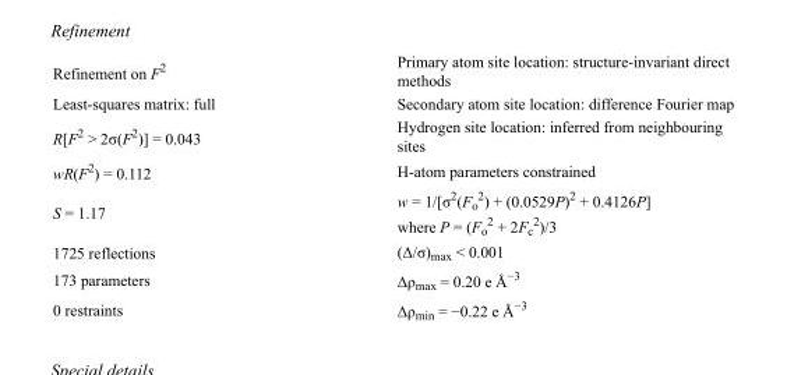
<table><tbody><tr><td>Refinement on F<sup>2</sup></td><td>Primary atom site location: structure-invariant direct methods</td></tr><tr><td>Least-squares matrix: full</td><td>Secondary atom site location: difference Fourier map</td></tr><tr><td>R[F<sup>2</sup> &gt; 2σ(F<sup>2</sup>)] = 0.043</td><td>Hydrogen site location: inferred from neighbouring sites</td></tr><tr><td>wR(F<sup>2</sup>) = 0.112</td><td>H-atom parameters constrained</td></tr><tr><td>S = 1.17</td><td>w = 1/[σ<sup>2</sup>(F<sub>o</sub> <sup>2</sup>) + (0.0529P)<sup>2</sup> + 0.4126P] where P = (F<sub>o</sub> <sup>2</sup> + 2F<sub>c</sub> <sup>2</sup>)/3</td></tr><tr><td>1725 reflections</td><td>(Δ/σ)<sub>max</sub> &lt; 0.001</td></tr><tr><td>173 parameters</td><td>Δρ<sub>max</sub> = 0.20 e Å<sup>−3</sup></td></tr><tr><td>0 restraints</td><td>Δρ<sub>min</sub> = −0.22 e Å<sup>−3</sup></td></tr></tbody></table>